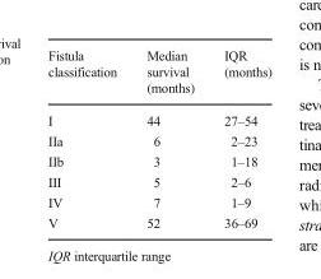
<table><thead><tr><td>Fistula classification</td><td>Median survival (months)</td><td>IQR (months)</td></tr></thead><tbody><tr><td>I</td><td>44</td><td>27–54</td></tr><tr><td>IIa</td><td>6</td><td>2–23</td></tr><tr><td>IIb</td><td>3</td><td>1–18</td></tr><tr><td>III</td><td>5</td><td>2–6</td></tr><tr><td>IV</td><td>7</td><td>1–9</td></tr><tr><td>V</td><td>52</td><td>36–69</td></tr></tbody></table>